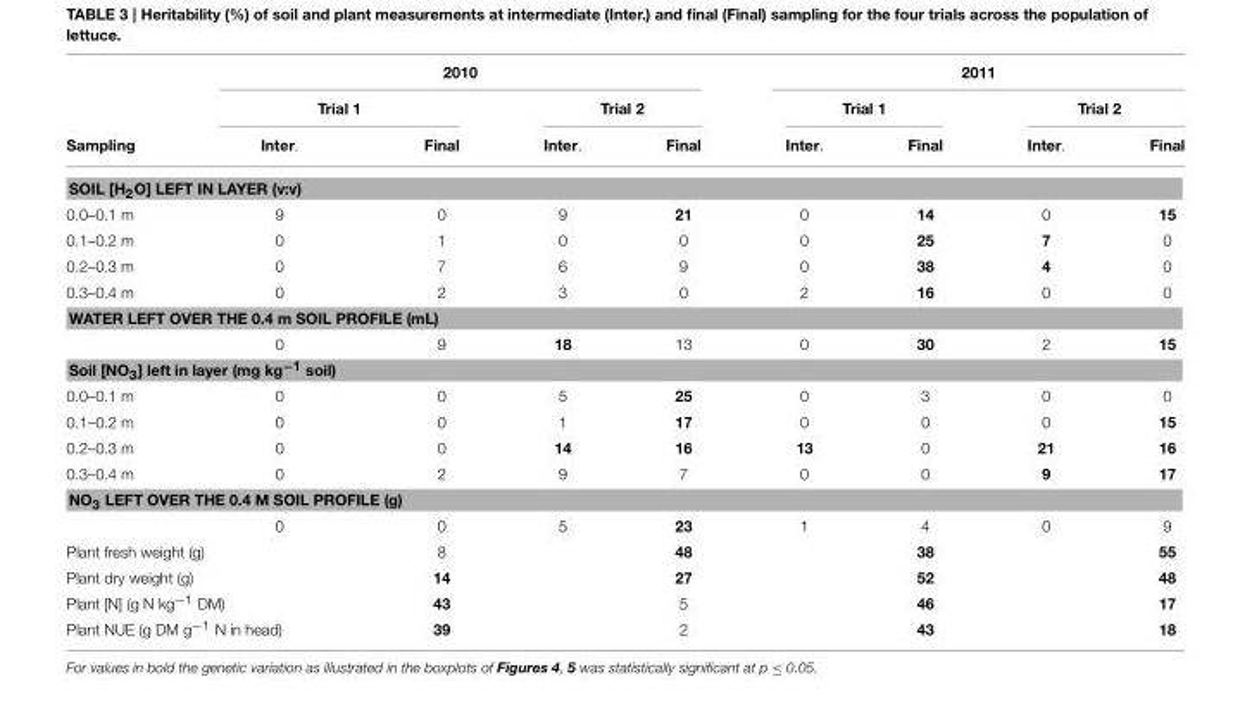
<table><thead><tr><td rowspan="3">Sampling</td><td colspan="4">2010</td><td colspan="4">2011</td></tr><tr><td colspan="2">Trial 1</td><td colspan="2">Trial 2</td><td colspan="2">Trial 1</td><td colspan="2">Trial 2</td></tr><tr><td>Inter.</td><td>Final</td><td>Inter.</td><td>Final</td><td>Inter.</td><td>Final</td><td>Inter.</td><td>Final</td></tr></thead><tbody><tr><td colspan="9">SOIL [H<sub>2</sub>O] LEFT IN LAYER (v:v)</td></tr><tr><td>0.0–0.1 m</td><td>9</td><td>0</td><td>9</td><td>21</td><td>0</td><td>14</td><td>0</td><td>15</td></tr><tr><td>0.1–0.2 m</td><td>0</td><td>1</td><td>0</td><td>0</td><td>0</td><td>25</td><td>7</td><td>0</td></tr><tr><td>0.2–0.3 m</td><td>0</td><td>7</td><td>6</td><td>9</td><td>0</td><td>38</td><td>4</td><td>0</td></tr><tr><td>0.3–0.4 m</td><td>0</td><td>2</td><td>3</td><td>0</td><td>2</td><td>16</td><td>0</td><td>0</td></tr><tr><td colspan="9">WATER LEFT OVER THE 0.4 m SOIL PROFILE (mL)</td></tr><tr><td></td><td>0</td><td>9</td><td>18</td><td>13</td><td>0</td><td>30</td><td>2</td><td>15</td></tr><tr><td colspan="9">Soil [NO<sub>3</sub>] left in layer (mg kg<sup>−1</sup> soil)</td></tr><tr><td>0.0–0.1 m</td><td>0</td><td>0</td><td>5</td><td>25</td><td>0</td><td>3</td><td>0</td><td>0</td></tr><tr><td>0.1–0.2 m</td><td>0</td><td>0</td><td>1</td><td>17</td><td>0</td><td>0</td><td>0</td><td>15</td></tr><tr><td>0.2–0.3 m</td><td>0</td><td>0</td><td>14</td><td>16</td><td>13</td><td>0</td><td>21</td><td>16</td></tr><tr><td>0.3–0.4 m</td><td>0</td><td>2</td><td>9</td><td>7</td><td>0</td><td>0</td><td>9</td><td>17</td></tr><tr><td colspan="9">NO<sub>3</sub> LEFT OVER THE 0.4 M SOIL PROFILE (g)</td></tr><tr><td></td><td>0</td><td>0</td><td>5</td><td>23</td><td>1</td><td>4</td><td>0</td><td>9</td></tr><tr><td colspan="2">Plant fresh weight (g)</td><td>8</td><td></td><td>48</td><td></td><td>38</td><td></td><td>55</td></tr><tr><td colspan="2">Plant dry weight (g)</td><td>14</td><td></td><td>27</td><td></td><td>52</td><td></td><td>48</td></tr><tr><td colspan="2">Plant [N] (g N kg<sup>−1</sup> DM)</td><td>43</td><td></td><td>5</td><td></td><td>46</td><td></td><td>17</td></tr><tr><td colspan="2">Plant NUE (g DM g<sup>−1</sup> N in head)</td><td>39</td><td></td><td>2</td><td></td><td>43</td><td></td><td>18</td></tr></tbody></table>